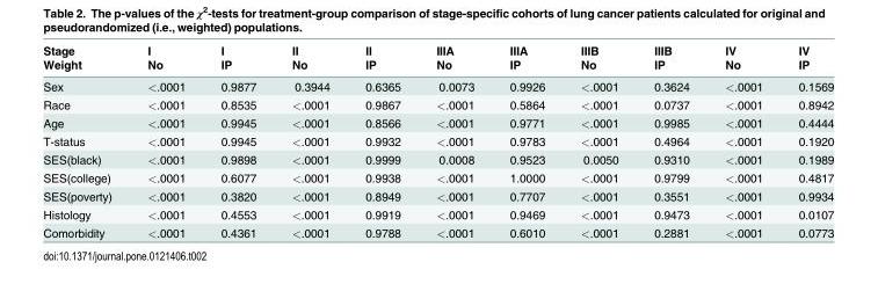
<table><thead><tr><td rowspan="2">Stage Weight</td><td rowspan="2">I No</td><td rowspan="2">I IP</td><td rowspan="2">II No</td><td rowspan="2">II IP</td><td rowspan="2">IIIA No</td><td rowspan="2">IIIA IP</td><td rowspan="2">IIIB No</td><td rowspan="2">IIIB IP</td><td rowspan="2">IV No</td><td rowspan="2">IV IP</td></tr><tr></tr></thead><tbody><tr><td>Sex</td><td>&lt;.0001</td><td>0.9877</td><td>0.3944</td><td>0.6365</td><td>0.0073</td><td>0.9926</td><td>&lt;.0001</td><td>0.3624</td><td>&lt;.0001</td><td>0.1569</td></tr><tr><td>Race</td><td>&lt;.0001</td><td>0.8535</td><td>&lt;.0001</td><td>0.9867</td><td>&lt;.0001</td><td>0.5864</td><td>&lt;.0001</td><td>0.0737</td><td>&lt;.0001</td><td>0.8942</td></tr><tr><td>Age</td><td>&lt;.0001</td><td>0.9945</td><td>&lt;.0001</td><td>0.8566</td><td>&lt;.0001</td><td>0.9771</td><td>&lt;.0001</td><td>0.9985</td><td>&lt;.0001</td><td>0.4444</td></tr><tr><td>T-status</td><td>&lt;.0001</td><td>0.9945</td><td>&lt;.0001</td><td>0.9932</td><td>&lt;.0001</td><td>0.9783</td><td>&lt;.0001</td><td>0.4964</td><td>&lt;.0001</td><td>0.1920</td></tr><tr><td>SES(black)</td><td>&lt;.0001</td><td>0.9898</td><td>&lt;.0001</td><td>0.9999</td><td>0.0008</td><td>0.9523</td><td>0.0050</td><td>0.9310</td><td>&lt;.0001</td><td>0.1989</td></tr><tr><td>SES(college)</td><td>&lt;.0001</td><td>0.6077</td><td>&lt;.0001</td><td>0.9938</td><td>&lt;.0001</td><td>1.0000</td><td>&lt;.0001</td><td>0.9799</td><td>&lt;.0001</td><td>0.4817</td></tr><tr><td>SES(poverty)</td><td>&lt;.0001</td><td>0.3820</td><td>&lt;.0001</td><td>0.8949</td><td>&lt;.0001</td><td>0.7707</td><td>&lt;.0001</td><td>0.3551</td><td>&lt;.0001</td><td>0.9934</td></tr><tr><td>Histology</td><td>&lt;.0001</td><td>0.4553</td><td>&lt;.0001</td><td>0.9919</td><td>&lt;.0001</td><td>0.9469</td><td>&lt;.0001</td><td>0.9473</td><td>&lt;.0001</td><td>0.0107</td></tr><tr><td>Comorbidity</td><td>&lt;.0001</td><td>0.4361</td><td>&lt;.0001</td><td>0.9788</td><td>&lt;.0001</td><td>0.6010</td><td>&lt;.0001</td><td>0.2881</td><td>&lt;.0001</td><td>0.0773</td></tr></tbody></table>